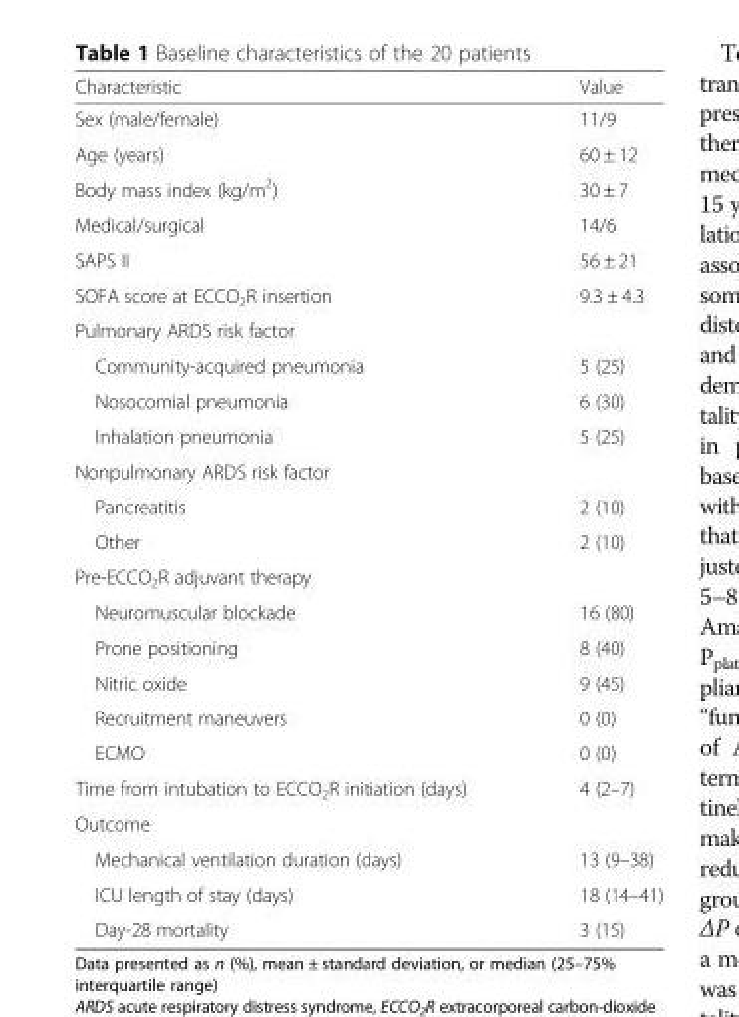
<table><thead><tr><td>Characteristic</td><td>Value</td></tr></thead><tbody><tr><td>Sex (male/female)</td><td>11/9</td></tr><tr><td>Age (years)</td><td>60 ± 12</td></tr><tr><td>Body mass index (kg/m<sup>2</sup>)</td><td>30 ± 7</td></tr><tr><td>Medical/surgical</td><td>14/6</td></tr><tr><td>SAPS II</td><td>56 ± 21</td></tr><tr><td>SOFA score at ECCO<sub>2</sub>R insertion</td><td>9.3 ± 4.3</td></tr><tr><td colspan="2">Pulmonary ARDS risk factor</td></tr><tr><td>Community-acquired pneumonia</td><td>5 (25)</td></tr><tr><td>Nosocomial pneumonia</td><td>6 (30)</td></tr><tr><td>Inhalation pneumonia</td><td>5 (25)</td></tr><tr><td colspan="2">Nonpulmonary ARDS risk factor</td></tr><tr><td>Pancreatitis</td><td>2 (10)</td></tr><tr><td>Other</td><td>2 (10)</td></tr><tr><td colspan="2">Pre-ECCO<sub>2</sub>R adjuvant therapy</td></tr><tr><td>Neuromuscular blockade</td><td>16 (80)</td></tr><tr><td>Prone positioning</td><td>8 (40)</td></tr><tr><td>Nitric oxide</td><td>9 (45)</td></tr><tr><td>Recruitment maneuvers</td><td>0 (0)</td></tr><tr><td>ECMO</td><td>0 (0)</td></tr><tr><td>Time from intubation to ECCO<sub>2</sub>R initiation (days)</td><td>4 (2–7)</td></tr><tr><td colspan="2">Outcome</td></tr><tr><td>Mechanical ventilation duration (days)</td><td>13 (9–38)</td></tr><tr><td>ICU length of stay (days)</td><td>18 (14–41)</td></tr><tr><td>Day-28 mortality</td><td>3 (15)</td></tr></tbody></table>